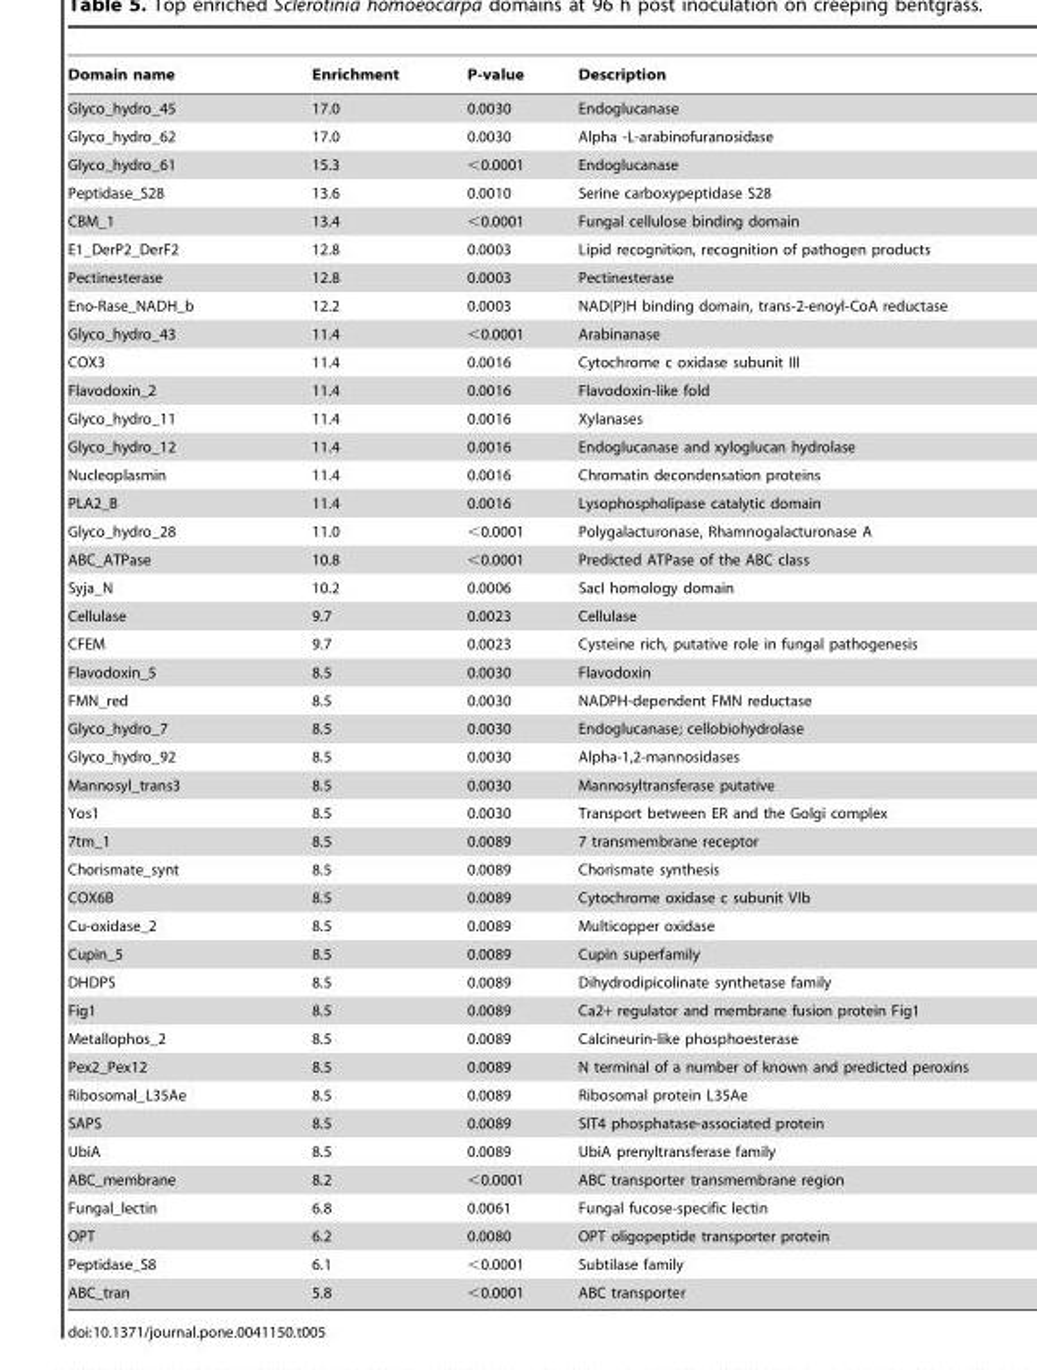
<table><thead><tr><td>Domain name</td><td>Enrichment</td><td>P-value</td><td>Description</td></tr></thead><tbody><tr><td>Glyco_hydro_45</td><td>17.0</td><td>0.0030</td><td>Endoglucanase</td></tr><tr><td>Glyco_hydro_62</td><td>17.0</td><td>0.0030</td><td>Alpha -L-arabinofuranosidase</td></tr><tr><td>Glyco_hydro_61</td><td>15.3</td><td>&lt;0.0001</td><td>Endoglucanase</td></tr><tr><td>Peptidase_S28</td><td>13.6</td><td>0.0010</td><td>Serine carboxypeptidase S28</td></tr><tr><td>CBM_1</td><td>13.4</td><td>&lt;0.0001</td><td>Fungal cellulose binding domain</td></tr><tr><td>E1_DerP2_DerF2</td><td>12.8</td><td>0.0003</td><td>Lipid recognition, recognition of pathogen products</td></tr><tr><td>Pectinesterase</td><td>12.8</td><td>0.0003</td><td>Pectinesterase</td></tr><tr><td>Eno-Rase_NADH_b</td><td>12.2</td><td>0.0003</td><td>NAD(P)H binding domain, trans-2-enoyl-CoA reductase</td></tr><tr><td>Glyco_hydro_43</td><td>11.4</td><td>&lt;0.0001</td><td>Arabinanase</td></tr><tr><td>COX3</td><td>11.4</td><td>0.0016</td><td>Cytochrome c oxidase subunit III</td></tr><tr><td>Flavodoxin_2</td><td>11.4</td><td>0.0016</td><td>Flavodoxin-like fold</td></tr><tr><td>Glyco_hydro_11</td><td>11.4</td><td>0.0016</td><td>Xylanases</td></tr><tr><td>Glyco_hydro_12</td><td>11.4</td><td>0.0016</td><td>Endoglucanase and xyloglucan hydrolase</td></tr><tr><td>Nucleoplasmin</td><td>11.4</td><td>0.0016</td><td>Chromatin decondensation proteins</td></tr><tr><td>PLA2_B</td><td>11.4</td><td>0.0016</td><td>Lysophospholipase catalytic domain</td></tr><tr><td>Glyco_hydro_28</td><td>11.0</td><td>&lt;0.0001</td><td>Polygalacturonase, Rhamnogalacturonase A</td></tr><tr><td>ABC_ATPase</td><td>10.8</td><td>&lt;0.0001</td><td>Predicted ATPase of the ABC class</td></tr><tr><td>Syja_N</td><td>10.2</td><td>0.0006</td><td>SacI homology domain</td></tr><tr><td>Cellulase</td><td>9.7</td><td>0.0023</td><td>Cellulase</td></tr><tr><td>CFEM</td><td>9.7</td><td>0.0023</td><td>Cysteine rich, putative role in fungal pathogenesis</td></tr><tr><td>Flavodoxin_5</td><td>8.5</td><td>0.0030</td><td>Flavodoxin</td></tr><tr><td>FMN_red</td><td>8.5</td><td>0.0030</td><td>NADPH-dependent FMN reductase</td></tr><tr><td>Glyco_hydro_7</td><td>8.5</td><td>0.0030</td><td>Endoglucanase; cellobiohydrolase</td></tr><tr><td>Glyco_hydro_92</td><td>8.5</td><td>0.0030</td><td>Alpha-1,2-mannosidases</td></tr><tr><td>Mannosyl_trans3</td><td>8.5</td><td>0.0030</td><td>Mannosyltransferase putative</td></tr><tr><td>Yos1</td><td>8.5</td><td>0.0030</td><td>Transport between ER and the Golgi complex</td></tr><tr><td>7tm_1</td><td>8.5</td><td>0.0089</td><td>7 transmembrane receptor</td></tr><tr><td>Chorismate_synt</td><td>8.5</td><td>0.0089</td><td>Chorismate synthesis</td></tr><tr><td>COX6B</td><td>8.5</td><td>0.0089</td><td>Cytochrome oxidase c subunit VIb</td></tr><tr><td>Cu-oxidase_2</td><td>8.5</td><td>0.0089</td><td>Multicopper oxidase</td></tr><tr><td>Cupin_5</td><td>8.5</td><td>0.0089</td><td>Cupin superfamily</td></tr><tr><td>DHDPS</td><td>8.5</td><td>0.0089</td><td>Dihydrodipicolinate synthetase family</td></tr><tr><td>Fig1</td><td>8.5</td><td>0.0089</td><td>Ca2+ regulator and membrane fusion protein Fig1</td></tr><tr><td>Metallophos_2</td><td>8.5</td><td>0.0089</td><td>Calcineurin-like phosphoesterase</td></tr><tr><td>Pex2_Pex12</td><td>8.5</td><td>0.0089</td><td>N terminal of a number of known and predicted peroxins</td></tr><tr><td>Ribosomal_L35Ae</td><td>8.5</td><td>0.0089</td><td>Ribosomal protein L35Ae</td></tr><tr><td>SAPS</td><td>8.5</td><td>0.0089</td><td>SIT4 phosphatase-associated protein</td></tr><tr><td>UbiA</td><td>8.5</td><td>0.0089</td><td>UbiA prenyltransferase family</td></tr><tr><td>ABC_membrane</td><td>8.2</td><td>&lt;0.0001</td><td>ABC transporter transmembrane region</td></tr><tr><td>Fungal_lectin</td><td>6.8</td><td>0.0061</td><td>Fungal fucose-specific lectin</td></tr><tr><td>OPT</td><td>6.2</td><td>0.0080</td><td>OPT oligopeptide transporter protein</td></tr><tr><td>Peptidase_S8</td><td>6.1</td><td>&lt;0.0001</td><td>Subtilase family</td></tr><tr><td>ABC_tran</td><td>5.8</td><td>&lt;0.0001</td><td>ABC transporter</td></tr></tbody></table>